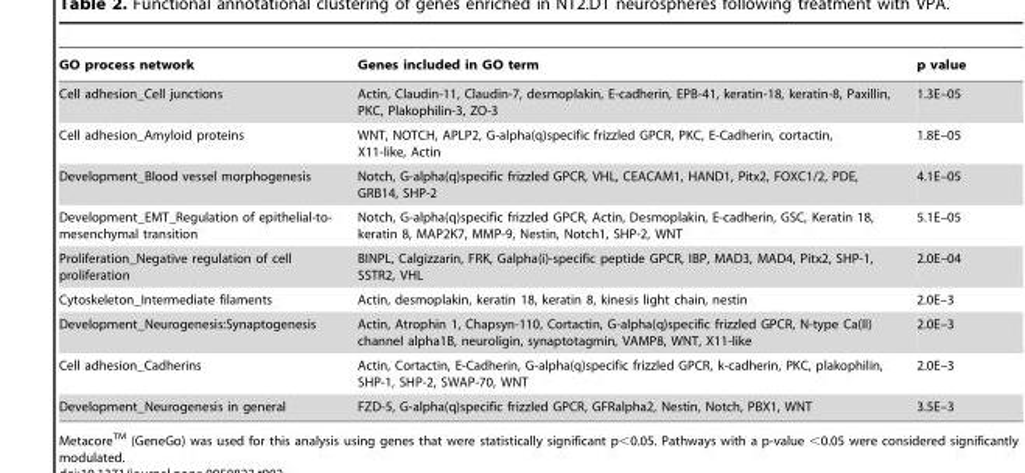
<table><thead><tr><td>GO process network</td><td>Genes included in GO term</td><td>p value</td></tr></thead><tbody><tr><td>Cell adhesion_Cell junctions</td><td>Actin, Claudin-11, Claudin-7, desmoplakin, E-cadherin, EPB-41, keratin-18, keratin-8, Paxillin, PKC, Plakophilin-3, ZO-3</td><td>1.3E–05</td></tr><tr><td>Cell adhesion_Amyloid proteins</td><td>WNT, NOTCH, APLP2, G-alpha(q)specific frizzled GPCR, PKC, E-Cadherin, cortactin, X11-like, Actin</td><td>1.8E–05</td></tr><tr><td>Development_Blood vessel morphogenesis</td><td>Notch, G-alpha(q)specific frizzled GPCR, VHL, CEACAM1, HAND1, Pitx2, FOXC1/2, PDE, GRB14, SHP-2</td><td>4.1E–05</td></tr><tr><td>Development_EMT_Regulation of epithelial-to- mesenchymal transition</td><td>Notch, G-alpha(q)specific frizzled GPCR, Actin, Desmoplakin, E-cadherin, GSC, Keratin 18, keratin 8, MAP2K7, MMP-9, Nestin, Notch1, SHP-2, WNT</td><td>5.1E–05</td></tr><tr><td>Proliferation_Negative regulation of cell proliferation</td><td>BINPL, Calgizzarin, FRK, Galpha(i)-specific peptide GPCR, IBP, MAD3, MAD4, Pitx2, SHP-1, SSTR2, VHL</td><td>2.0E–04</td></tr><tr><td>Cytoskeleton_Intermediate filaments</td><td>Actin, desmoplakin, keratin 18, keratin 8, kinesis light chain, nestin</td><td>2.0E–3</td></tr><tr><td>Development_Neurogenesis:Synaptogenesis</td><td>Actin, Atrophin 1, Chapsyn-110, Cortactin, G-alpha(q)specific frizzled GPCR, N-type Ca(II) channel alpha1B, neuroligin, synaptotagmin, VAMP8, WNT, X11-like</td><td>2.0E–3</td></tr><tr><td>Cell adhesion_Cadherins</td><td>Actin, Cortactin, E-Cadherin, G-alpha(q)specific frizzled GPCR, k-cadherin, PKC, plakophilin, SHP-1, SHP-2, SWAP-70, WNT</td><td>2.0E–3</td></tr><tr><td>Development_Neurogenesis in general</td><td>FZD-5, G-alpha(q)specific frizzled GPCR, GFRalpha2, Nestin, Notch, PBX1, WNT</td><td>3.5E–3</td></tr></tbody></table>